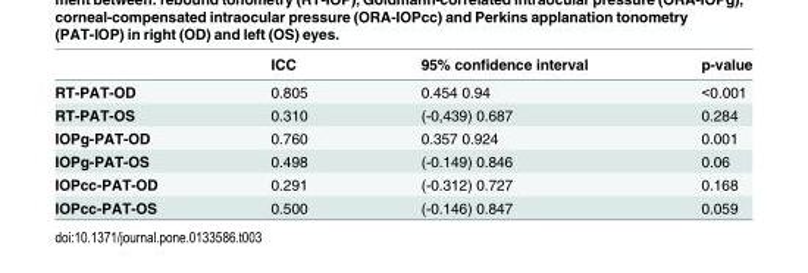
<table><thead><tr><td></td><td>ICC</td><td>95% confidence interval</td><td>p-value</td></tr></thead><tbody><tr><td>RT-PAT-OD</td><td>0.805</td><td>0.454 0.94</td><td>&lt;0.001</td></tr><tr><td>RT-PAT-OS</td><td>0.310</td><td>(-0,439) 0.687</td><td>0.284</td></tr><tr><td>IOPg-PAT-OD</td><td>0.760</td><td>0.357 0.924</td><td>0.001</td></tr><tr><td>IOPg-PAT-OS</td><td>0.498</td><td>(-0.149) 0.846</td><td>0.06</td></tr><tr><td>IOPcc-PAT-OD</td><td>0.291</td><td>(-0.312) 0.727</td><td>0.168</td></tr><tr><td>IOPcc-PAT-OS</td><td>0.500</td><td>(-0.146) 0.847</td><td>0.059</td></tr></tbody></table>